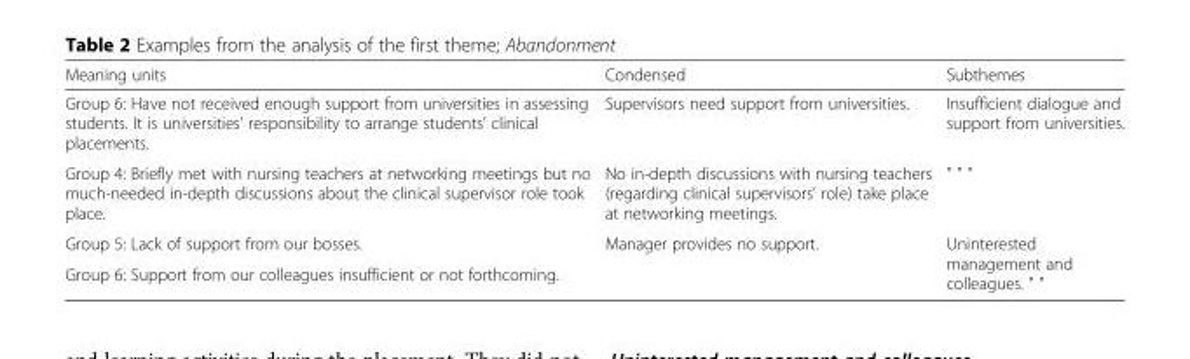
<table><thead><tr><td>Meaning units</td><td>Condensed</td><td>Subthemes</td></tr></thead><tbody><tr><td>Group 6: Have not received enough support from universities in assessing students. It is universities’ responsibility to arrange students’ clinical placements.</td><td>Supervisors need support from universities.</td><td>Insufficient dialogue and support from universities.</td></tr><tr><td>Group 4: Briefly met with nursing teachers at networking meetings but no much-needed in-depth discussions about the clinical supervisor role took place.</td><td>No in-depth discussions with nursing teachers (regarding clinical supervisors’ role) take place at networking meetings.</td><td>&quot; &quot; &quot;</td></tr><tr><td>Group 5: Lack of support from our bosses.</td><td rowspan="2">Manager provides no support.</td><td rowspan="2">Uninterested management and colleagues. &quot; &quot;</td></tr><tr><td>Group 6: Support from our colleagues insufficient or not forthcoming.</td></tr></tbody></table>